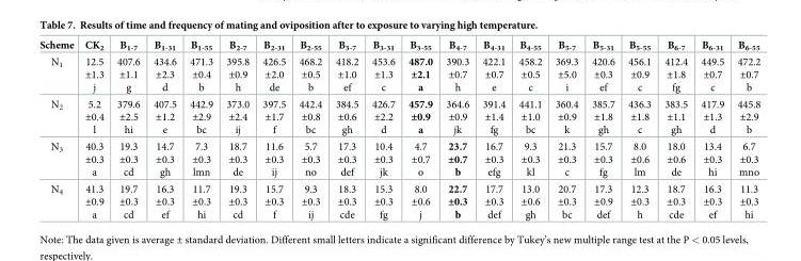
<table><thead><tr><td>Scheme</td><td>CK<sub>2</sub></td><td>B<sub>1-7</sub></td><td>B<sub>1-31</sub></td><td>B<sub>1-55</sub></td><td>B<sub>2-7</sub></td><td>B<sub>2-31</sub></td><td>B<sub>2-55</sub></td><td>B<sub>3-7</sub></td><td>B<sub>3-31</sub></td><td>B<sub>3-55</sub></td><td>B<sub>4-7</sub></td><td>B<sub>4-31</sub></td><td>B<sub>4-55</sub></td><td>B<sub>5-7</sub></td><td>B<sub>5-31</sub></td><td>B<sub>5-55</sub></td><td>B<sub>6-7</sub></td><td>B<sub>6-31</sub></td><td>B<sub>6-55</sub></td></tr></thead><tbody><tr><td>N<sub>1</sub></td><td>12.5 ±1.3 j</td><td>407.6 ±1.1 g</td><td>434.6 ±2.3 d</td><td>471.3 ±0.4 b</td><td>395.8 ±0.9 h</td><td>426.5 ±2.0 de</td><td>468.2 ±0.5 b</td><td>418.2 ±1.0 ef</td><td>453.6 ±1.3 c</td><td>487.0 ±2.1 a</td><td>390.3 ±0.7 h</td><td>422.1 ±0.7 e</td><td>458.2 ±0.5 c</td><td>369.3 ±5.0 i</td><td>420.6 ±0.3 ef</td><td>456.1 ±0.9 c</td><td>412.4 ±1.8 fg</td><td>449.5 ±0.7 c</td><td>472.2 ±0.7 b</td></tr><tr><td>N<sub>2</sub></td><td>5.2 ±0.4 l</td><td>379.6 ±2.5 hi</td><td>407.5 ±1.2 e</td><td>442.9 ±2.9 bc</td><td>373.0 ±2.4 ij</td><td>397.5 ±1.7 f</td><td>442.4 ±0.8 bc</td><td>384.5 ±0.6 gh</td><td>426.7 ±2.2 d</td><td>457.9 ±0.9 a</td><td>364.6 ±0.9 jk</td><td>391.4 ±1.4 fg</td><td>441.1 ±1.0 bc</td><td>360.4 ±0.9 k</td><td>385.7 ±1.8 gh</td><td>436.3 ±1.8 c</td><td>383.5 ±1.1 gh</td><td>417.9 ±1.3 d</td><td>445.8 ±2.9 b</td></tr><tr><td>N<sub>3</sub></td><td>40.3 ±0.3 a</td><td>19.3 ±0.3 cd</td><td>14.7 ±0.3 gh</td><td>7.3 ±0.3 lmn</td><td>18.7 ±0.3 de</td><td>11.6 ±0.3 ij</td><td>5.7 ±0.3 no</td><td>17.3 ±0.3 def</td><td>10.4 ±0.3 jk</td><td>4.7 ±0.7 o</td><td>23.7 ±0.7 b</td><td>16.7 ±0.3 efg</td><td>9.3 ±0.3 kl</td><td>21.3 ±0.3 c</td><td>15.7 ±0.3 fg</td><td>8.0 ±0.6 lm</td><td>18.0 ±0.6 de</td><td>13.4 ±0.3 hi</td><td>6.7 ±0.3 mno</td></tr><tr><td>N<sub>4</sub></td><td>41.3 ±0.9 a</td><td>19.7 ±0.3 cd</td><td>16.3 ±0.3 ef</td><td>11.7 ±0.3 hi</td><td>19.3 ±0.3 cd</td><td>15.7 ±0.3 f</td><td>9.3 ±0.3 ij</td><td>18.3 ±0.3 cde</td><td>15.3 ±0.3 fg</td><td>8.0 ±0.6 j</td><td>22.7 ±0.3 b</td><td>17.7 ±0.3 def</td><td>13.0 ±0.6 gh</td><td>20.7 ±0.3 bc</td><td>17.3 ±0.9 def</td><td>12.3 ±0.3 h</td><td>18.7 ±0.3 cde</td><td>16.3 ±0.3 ef</td><td>11.3 ±0.3 hi</td></tr></tbody></table>